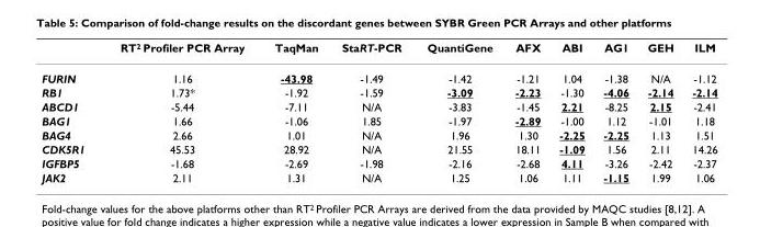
<table><thead><tr><td></td><td>RT<sup>2</sup> Profiler PCR Array</td><td>TaqMan</td><td>StaRT-PCR</td><td>QuantiGene</td><td>AFX</td><td>ABI</td><td>AG1</td><td>GEH</td><td>ILM</td></tr></thead><tbody><tr><td>FURIN</td><td>1.16</td><td>-43.98</td><td>-1.49</td><td>-1.42</td><td>-1.21</td><td>1.04</td><td>-1.38</td><td>N/A</td><td>-1.12</td></tr><tr><td>RB1</td><td>1.73*</td><td>-1.92</td><td>-1.59</td><td>-3.09</td><td>-2.23</td><td>-1.30</td><td>-4.06</td><td>-2.14</td><td>-2.14</td></tr><tr><td>ABCD1</td><td>-5.44</td><td>-7.11</td><td>N/A</td><td>-3.83</td><td>-1.45</td><td>2.21</td><td>-8.25</td><td>2.15</td><td>-2.41</td></tr><tr><td>BAG1</td><td>1.66</td><td>-1.06</td><td>1.85</td><td>-1.97</td><td>-2.89</td><td>-1.00</td><td>1.12</td><td>-1.01</td><td>1.18</td></tr><tr><td>BAG4</td><td>2.66</td><td>1.01</td><td>N/A</td><td>1.96</td><td>1.30</td><td>-2.25</td><td>-2.25</td><td>1.13</td><td>1.51</td></tr><tr><td>CDK5R1</td><td>45.53</td><td>28.92</td><td>N/A</td><td>21.55</td><td>18.11</td><td>-1.09</td><td>1.56</td><td>2.11</td><td>14.26</td></tr><tr><td>IGFBP5</td><td>-1.68</td><td>-2.69</td><td>-1.98</td><td>-2.16</td><td>-2.68</td><td>4.11</td><td>-3.26</td><td>-2.42</td><td>-2.37</td></tr><tr><td>JAK2</td><td>2.11</td><td>1.31</td><td>N/A</td><td>1.25</td><td>1.06</td><td>1.11</td><td>-1.15</td><td>1.99</td><td>1.06</td></tr></tbody></table>